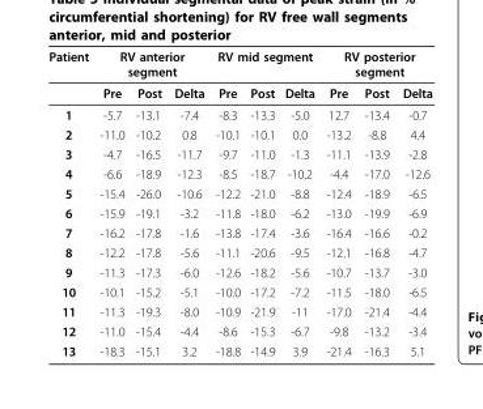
<table><thead><tr><td rowspan="2">Patient</td><td colspan="3">RV anterior segment</td><td colspan="3">RV mid segment</td><td colspan="3">RV posterior segment</td></tr><tr><td>Pre</td><td>Post</td><td>Delta</td><td>Pre</td><td>Post</td><td>Delta</td><td>Pre</td><td>Post</td><td>Delta</td></tr></thead><tbody><tr><td>1</td><td>-5.7</td><td>-13.1</td><td>-7.4</td><td>-8.3</td><td>-13.3</td><td>-5.0</td><td>12.7</td><td>-13.4</td><td>-0.7</td></tr><tr><td>2</td><td>-11.0</td><td>-10.2</td><td>0.8</td><td>-10.1</td><td>-10.1</td><td>0.0</td><td>-13.2</td><td>-8.8</td><td>4.4</td></tr><tr><td>3</td><td>-4.7</td><td>-16.5</td><td>-11.7</td><td>-9.7</td><td>-11.0</td><td>-1.3</td><td>-11.1</td><td>-13.9</td><td>-2.8</td></tr><tr><td>4</td><td>-6.6</td><td>-18.9</td><td>-12.3</td><td>-8.5</td><td>-18.7</td><td>-10.2</td><td>-4.4</td><td>-17.0</td><td>-12.6</td></tr><tr><td>5</td><td>-15.4</td><td>-26.0</td><td>-10.6</td><td>-12.2</td><td>-21.0</td><td>-8.8</td><td>-12.4</td><td>-18.9</td><td>-6.5</td></tr><tr><td>6</td><td>-15.9</td><td>-19.1</td><td>-3.2</td><td>-11.8</td><td>-18.0</td><td>-6.2</td><td>-13.0</td><td>-19.9</td><td>-6.9</td></tr><tr><td>7</td><td>-16.2</td><td>-17.8</td><td>-1.6</td><td>-13.8</td><td>-17.4</td><td>-3.6</td><td>-16.4</td><td>-16.6</td><td>-0.2</td></tr><tr><td>8</td><td>-12.2</td><td>-17.8</td><td>-5.6</td><td>-11.1</td><td>-20.6</td><td>-9.5</td><td>-12.1</td><td>-16.8</td><td>-4.7</td></tr><tr><td>9</td><td>-11.3</td><td>-17.3</td><td>-6.0</td><td>-12.6</td><td>-18.2</td><td>-5.6</td><td>-10.7</td><td>-13.7</td><td>-3.0</td></tr><tr><td>10</td><td>-10.1</td><td>-15.2</td><td>-5.1</td><td>-10.0</td><td>-17.2</td><td>-7.2</td><td>-11.5</td><td>-18.0</td><td>-6.5</td></tr><tr><td>11</td><td>-11.3</td><td>-19.3</td><td>-8.0</td><td>-10.9</td><td>-21.9</td><td>-11</td><td>-17.0</td><td>-21.4</td><td>-4.4</td></tr><tr><td>12</td><td>-11.0</td><td>-15.4</td><td>-4.4</td><td>-8.6</td><td>-15.3</td><td>-6.7</td><td>-9.8</td><td>-13.2</td><td>-3.4</td></tr><tr><td>13</td><td>-18.3</td><td>-15.1</td><td>3.2</td><td>-18.8</td><td>-14.9</td><td>3.9</td><td>-21.4</td><td>-16.3</td><td>5.1</td></tr></tbody></table>